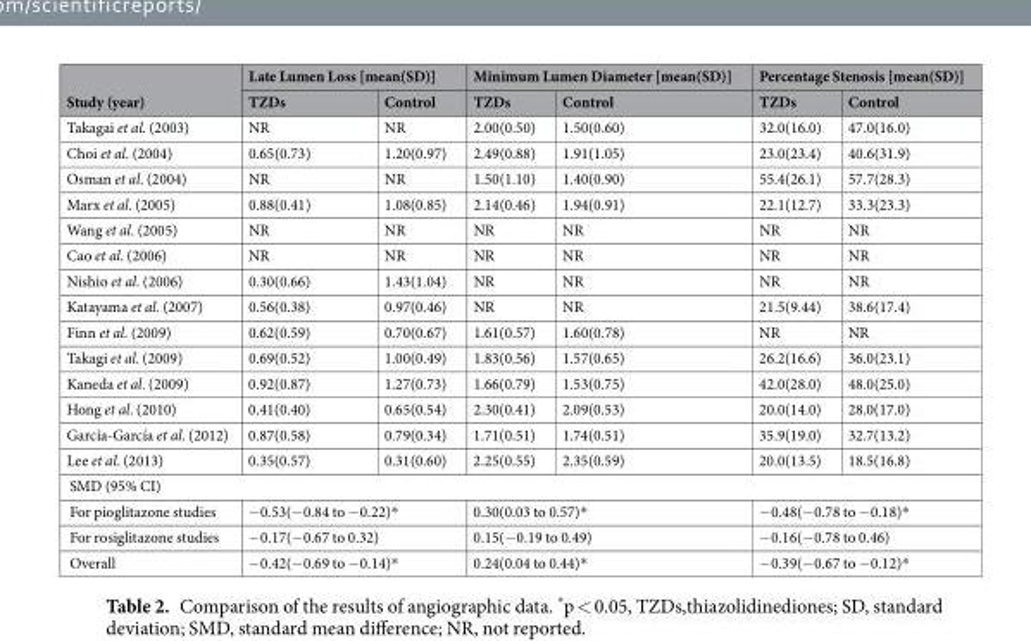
<table><thead><tr><td rowspan="2">Study (year)</td><td colspan="2">Late Lumen Loss [mean(SD)]</td><td colspan="2">Minimum Lumen Diameter [mean(SD)]</td><td colspan="2">Percentage Stenosis [mean(SD)]</td></tr><tr><td>TZDs</td><td>Control</td><td>TZDs</td><td>Control</td><td>TZDs</td><td>Control</td></tr></thead><tbody><tr><td>Takagai et al. (2003)</td><td>NR</td><td>NR</td><td>2.00(0.50)</td><td>1.50(0.60)</td><td>32.0(16.0)</td><td>47.0(16.0)</td></tr><tr><td>Choi et al. (2004)</td><td>0.65(0.73)</td><td>1.20(0.97)</td><td>2.49(0.88)</td><td>1.91(1.05)</td><td>23.0(23.4)</td><td>40.6(31.9)</td></tr><tr><td>Osman et al. (2004)</td><td>NR</td><td>NR</td><td>1.50(1.10)</td><td>1.40(0.90)</td><td>55.4(26.1)</td><td>57.7(28.3)</td></tr><tr><td>Marx et al. (2005)</td><td>0.88(0.41)</td><td>1.08(0.85)</td><td>2.14(0.46)</td><td>1.94(0.91)</td><td>22.1(12.7)</td><td>33.3(23.3)</td></tr><tr><td>Wang et al. (2005)</td><td>NR</td><td>NR</td><td>NR</td><td>NR</td><td>NR</td><td>NR</td></tr><tr><td>Cao et al. (2006)</td><td>NR</td><td>NR</td><td>NR</td><td>NR</td><td>NR</td><td>NR</td></tr><tr><td>Nishio et al. (2006)</td><td>0.30(0.66)</td><td>1.43(1.04)</td><td>NR</td><td>NR</td><td>NR</td><td>NR</td></tr><tr><td>Katayama et al. (2007)</td><td>0.56(0.38)</td><td>0.97(0.46)</td><td>NR</td><td>NR</td><td>21.5(9.44)</td><td>38.6(17.4)</td></tr><tr><td>Finn et al. (2009)</td><td>0.62(0.59)</td><td>0.70(0.67)</td><td>1.61(0.57)</td><td>1.60(0.78)</td><td>NR</td><td>NR</td></tr><tr><td>Takagi et al. (2009)</td><td>0.69(0.52)</td><td>1.00(0.49)</td><td>1.83(0.56)</td><td>1.57(0.65)</td><td>26.2(16.6)</td><td>36.0(23.1)</td></tr><tr><td>Kaneda et al. (2009)</td><td>0.92(0.87)</td><td>1.27(0.73)</td><td>1.66(0.79)</td><td>1.53(0.75)</td><td>42.0(28.0)</td><td>48.0(25.0)</td></tr><tr><td>Hong et al. (2010)</td><td>0.41(0.40)</td><td>0.65(0.54)</td><td>2.30(0.41)</td><td>2.09(0.53)</td><td>20.0(14.0)</td><td>28.0(17.0)</td></tr><tr><td>García-García et al. (2012)</td><td>0.87(0.58)</td><td>0.79(0.34)</td><td>1.71(0.51)</td><td>1.74(0.51)</td><td>35.9(19.0)</td><td>32.7(13.2)</td></tr><tr><td>Lee et al. (2013)</td><td>0.35(0.57)</td><td>0.31(0.60)</td><td>2.25(0.55)</td><td>2.35(0.59)</td><td>20.0(13.5)</td><td>18.5(16.8)</td></tr><tr><td colspan="7">SMD (95% CI)</td></tr><tr><td>For pioglitazone studies</td><td colspan="2">−0.53(−0.84 to −0.22)*</td><td colspan="2">0.30(0.03 to 0.57)*</td><td colspan="2">−0.48(−0.78 to −0.18)*</td></tr><tr><td>For rosiglitazone studies</td><td colspan="2">−0.17(−0.67 to 0.32)</td><td colspan="2">0.15(−0.19 to 0.49)</td><td colspan="2">−0.16(−0.78 to 0.46)</td></tr><tr><td>Overall</td><td colspan="2">−0.42(−0.69 to −0.14)*</td><td colspan="2">0.24(0.04 to 0.44)*</td><td colspan="2">−0.39(−0.67 to −0.12)*</td></tr></tbody></table>